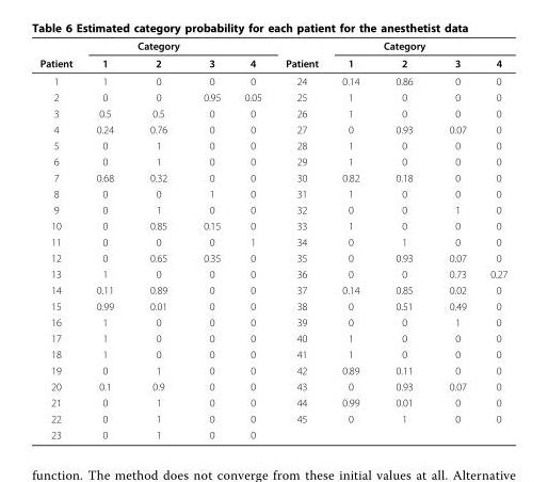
<table><thead><tr><td rowspan="2">Patient</td><td rowspan="2">1</td><td rowspan="2">Category 2</td><td rowspan="2">3</td><td rowspan="2">4</td><td rowspan="2">Patient</td><td rowspan="2">1</td><td rowspan="2">Category 2</td><td rowspan="2">3</td><td rowspan="2">4</td></tr><tr></tr></thead><tbody><tr><td>1</td><td>1</td><td>0</td><td>0</td><td>0</td><td>24</td><td>0.14</td><td>0.86</td><td>0</td><td>0</td></tr><tr><td>2</td><td>0</td><td>0</td><td>0.95</td><td>0.05</td><td>25</td><td>1</td><td>0</td><td>0</td><td>0</td></tr><tr><td>3</td><td>0.5</td><td>0.5</td><td>0</td><td>0</td><td>26</td><td>1</td><td>0</td><td>0</td><td>0</td></tr><tr><td>4</td><td>0.24</td><td>0.76</td><td>0</td><td>0</td><td>27</td><td>0</td><td>0.93</td><td>0.07</td><td>0</td></tr><tr><td>5</td><td>0</td><td>1</td><td>0</td><td>0</td><td>28</td><td>1</td><td>0</td><td>0</td><td>0</td></tr><tr><td>6</td><td>0</td><td>1</td><td>0</td><td>0</td><td>29</td><td>1</td><td>0</td><td>0</td><td>0</td></tr><tr><td>7</td><td>0.68</td><td>0.32</td><td>0</td><td>0</td><td>30</td><td>0.82</td><td>0.18</td><td>0</td><td>0</td></tr><tr><td>8</td><td>0</td><td>0</td><td>1</td><td>0</td><td>31</td><td>1</td><td>0</td><td>0</td><td>0</td></tr><tr><td>9</td><td>0</td><td>1</td><td>0</td><td>0</td><td>32</td><td>0</td><td>0</td><td>1</td><td>0</td></tr><tr><td>10</td><td>0</td><td>0.85</td><td>0.15</td><td>0</td><td>33</td><td>1</td><td>0</td><td>0</td><td>0</td></tr><tr><td>11</td><td>0</td><td>0</td><td>0</td><td>1</td><td>34</td><td>0</td><td>1</td><td>0</td><td>0</td></tr><tr><td>12</td><td>0</td><td>0.65</td><td>0.35</td><td>0</td><td>35</td><td>0</td><td>0.93</td><td>0.07</td><td>0</td></tr><tr><td>13</td><td>1</td><td>0</td><td>0</td><td>0</td><td>36</td><td>0</td><td>0</td><td>0.73</td><td>0.27</td></tr><tr><td>14</td><td>0.11</td><td>0.89</td><td>0</td><td>0</td><td>37</td><td>0.14</td><td>0.85</td><td>0.02</td><td>0</td></tr><tr><td>15</td><td>0.99</td><td>0.01</td><td>0</td><td>0</td><td>38</td><td>0</td><td>0.51</td><td>0.49</td><td>0</td></tr><tr><td>16</td><td>1</td><td>0</td><td>0</td><td>0</td><td>39</td><td>0</td><td>0</td><td>1</td><td>0</td></tr><tr><td>17</td><td>1</td><td>0</td><td>0</td><td>0</td><td>40</td><td>1</td><td>0</td><td>0</td><td>0</td></tr><tr><td>18</td><td>1</td><td>0</td><td>0</td><td>0</td><td>41</td><td>1</td><td>0</td><td>0</td><td>0</td></tr><tr><td>19</td><td>0</td><td>1</td><td>0</td><td>0</td><td>42</td><td>0.89</td><td>0.11</td><td>0</td><td>0</td></tr><tr><td>20</td><td>0.1</td><td>0.9</td><td>0</td><td>0</td><td>43</td><td>0</td><td>0.93</td><td>0.07</td><td>0</td></tr><tr><td>21</td><td>0</td><td>1</td><td>0</td><td>0</td><td>44</td><td>0.99</td><td>0.01</td><td>0</td><td>0</td></tr><tr><td>22</td><td>0</td><td>1</td><td>0</td><td>0</td><td>45</td><td>0</td><td>1</td><td>0</td><td>0</td></tr><tr><td>23</td><td>0</td><td>1</td><td>0</td><td>0</td><td></td><td></td><td></td><td></td><td></td></tr></tbody></table>